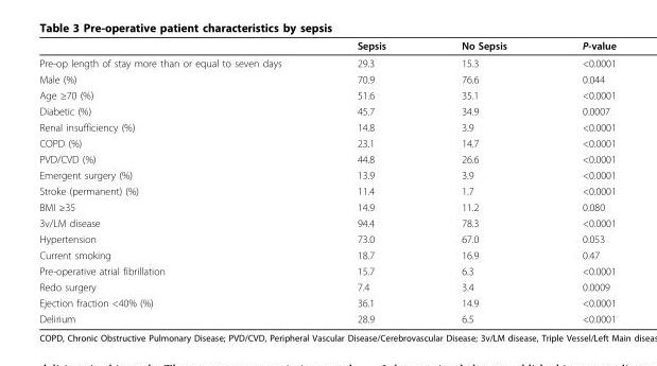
<table><thead><tr><td></td><td>Sepsis</td><td>No Sepsis</td><td>P-value</td></tr></thead><tbody><tr><td>Pre-op length of stay more than or equal to seven days</td><td>29.3</td><td>15.3</td><td>&lt;0.0001</td></tr><tr><td>Male (%)</td><td>70.9</td><td>76.6</td><td>0.044</td></tr><tr><td>Age ≥70 (%)</td><td>51.6</td><td>35.1</td><td>&lt;0.0001</td></tr><tr><td>Diabetic (%)</td><td>45.7</td><td>34.9</td><td>0.0007</td></tr><tr><td>Renal insufficiency (%)</td><td>14.8</td><td>3.9</td><td>&lt;0.0001</td></tr><tr><td>COPD (%)</td><td>23.1</td><td>14.7</td><td>&lt;0.0001</td></tr><tr><td>PVD/CVD (%)</td><td>44.8</td><td>26.6</td><td>&lt;0.0001</td></tr><tr><td>Emergent surgery (%)</td><td>13.9</td><td>3.9</td><td>&lt;0.0001</td></tr><tr><td>Stroke (permanent) (%)</td><td>11.4</td><td>1.7</td><td>&lt;0.0001</td></tr><tr><td>BMI ≥35</td><td>14.9</td><td>11.2</td><td>0.080</td></tr><tr><td>3v/LM disease</td><td>94.4</td><td>78.3</td><td>&lt;0.0001</td></tr><tr><td>Hypertension</td><td>73.0</td><td>67.0</td><td>0.053</td></tr><tr><td>Current smoking</td><td>18.7</td><td>16.9</td><td>0.47</td></tr><tr><td>Pre-operative atrial fibrillation</td><td>15.7</td><td>6.3</td><td>&lt;0.0001</td></tr><tr><td>Redo surgery</td><td>7.4</td><td>3.4</td><td>0.0009</td></tr><tr><td>Ejection fraction &lt;40% (%)</td><td>36.1</td><td>14.9</td><td>&lt;0.0001</td></tr><tr><td>Delirium</td><td>28.9</td><td>6.5</td><td>&lt;0.0001</td></tr></tbody></table>